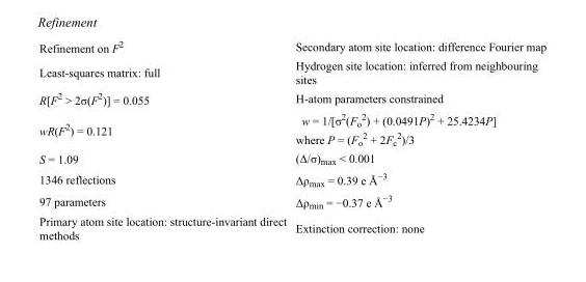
<table><tbody><tr><td>Refinement on F<sup>2</sup></td><td>Secondary atom site location: difference Fourier map</td></tr><tr><td>Least-squares matrix: full</td><td>Hydrogen site location: inferred from neighbouring sites</td></tr><tr><td>R[F<sup>2</sup> &gt; 2σ(F<sup>2</sup>)] = 0.055</td><td>H-atom parameters constrained</td></tr><tr><td>wR(F<sup>2</sup>) = 0.121</td><td>w = 1/[σ<sup>2</sup>(F<sub>o</sub> <sup>2</sup>) + (0.0491P)<sup>2</sup> + 25.4234P] where P = (F<sub>o</sub> <sup>2</sup> + 2F<sub>c</sub> <sup>2</sup>)/3</td></tr><tr><td>S = 1.09</td><td>(Δ/σ)<sub>max</sub> &lt; 0.001</td></tr><tr><td>1346 reflections</td><td>Δρ<sub>max</sub> = 0.39 e Å<sup>−3</sup></td></tr><tr><td>97 parameters</td><td>Δρ<sub>min</sub> = −0.37 e Å<sup>−3</sup></td></tr><tr><td>Primary atom site location: structure-invariant direct methods</td><td>Extinction correction: none</td></tr></tbody></table>